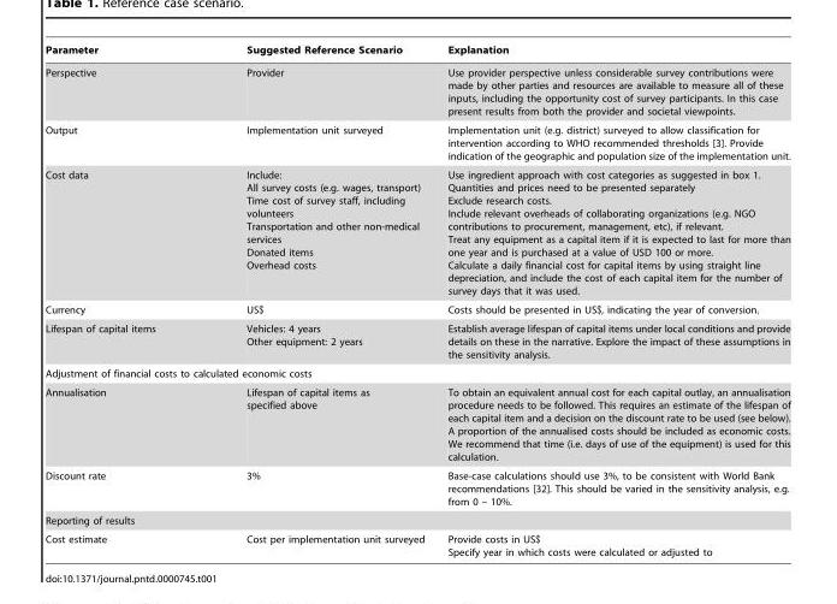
<table><thead><tr><td>Parameter</td><td>Suggested Reference Scenario</td><td>Explanation</td></tr></thead><tbody><tr><td>Perspective</td><td>Provider</td><td>Use provider perspective unless considerable survey contributions were made by other parties and resources are available to measure all of these inputs, including the opportunity cost of survey participants. In this case present results from both the provider and societal viewpoints.</td></tr><tr><td>Output</td><td>Implementation unit surveyed</td><td>Implementation unit (e.g. district) surveyed to allow classification for intervention according to WHO recommended thresholds [3]. Provide indication of the geographic and population size of the implementation unit.</td></tr><tr><td>Cost data</td><td>Include: All survey costs (e.g. wages, transport) Time cost of survey staff, including volunteers Transportation and other non-medical services Donated items Overhead costs</td><td>Use ingredient approach with cost categories as suggested in box 1. Quantities and prices need to be presented separately Exclude research costs. Include relevant overheads of collaborating organizations (e.g. NGO contributions to procurement, management, etc), if relevant. Treat any equipment as a capital item if it is expected to last for more than one year and is purchased at a value of USD 100 or more. Calculate a daily financial cost for capital items by using straight line depreciation, and include the cost of each capital item for the number of survey days that it was used.</td></tr><tr><td>Currency</td><td>US$</td><td>Costs should be presented in US$, indicating the year of conversion.</td></tr><tr><td>Lifespan of capital items</td><td>Vehicles: 4 years Other equipment: 2 years</td><td>Establish average lifespan of capital items under local conditions and provide details on these in the narrative. Explore the impact of these assumptions in the sensitivity analysis.</td></tr><tr><td colspan="3">Adjustment of financial costs to calculated economic costs</td></tr><tr><td>Annualisation</td><td>Lifespan of capital items as specified above</td><td>To obtain an equivalent annual cost for each capital outlay, an annualisation procedure needs to be followed. This requires an estimate of the lifespan of each capital item and a decision on the discount rate to be used (see below). A proportion of the annualised costs should be included as economic costs. We recommend that time (i.e. days of use of the equipment) is used for this calculation.</td></tr><tr><td>Discount rate</td><td>3%</td><td>Base-case calculations should use 3%, to be consistent with World Bank recommendations [32]. This should be varied in the sensitivity analysis, e.g. from 0 – 10%.</td></tr><tr><td colspan="3">Reporting of results</td></tr><tr><td>Cost estimate</td><td>Cost per implementation unit surveyed</td><td>Provide costs in US$ Specify year in which costs were calculated or adjusted to</td></tr></tbody></table>